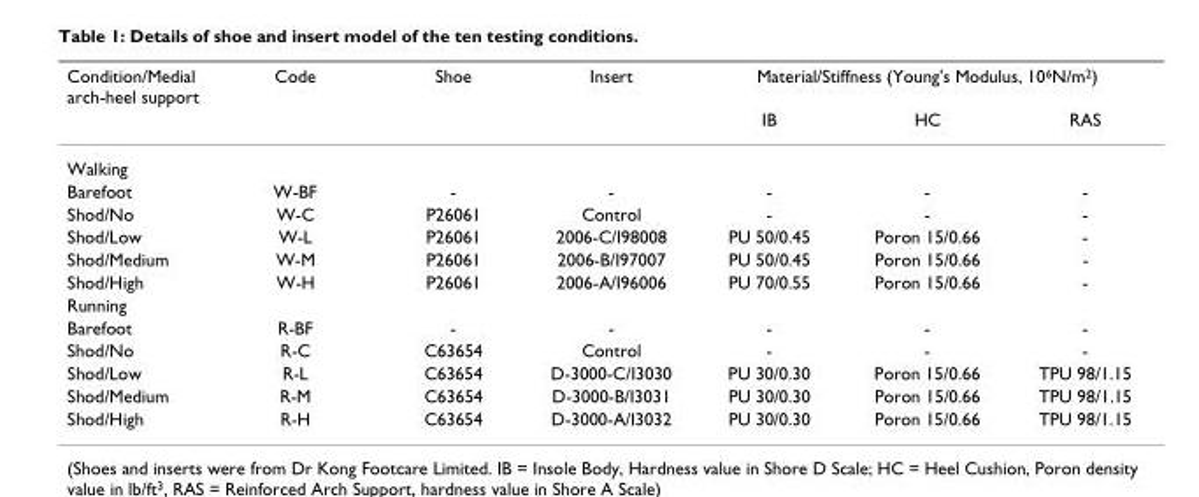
<table><thead><tr><td rowspan="2">Condition/Medial arch-heel support</td><td rowspan="2">Code</td><td rowspan="2">Shoe</td><td rowspan="2">Insert</td><td colspan="3">Material/Stiffness (Young&#x27;s Modulus, 10<sup>6</sup>N/m<sup>2</sup>)</td></tr><tr><td>IB</td><td>HC</td><td>RAS</td></tr></thead><tbody><tr><td colspan="7">Walking</td></tr><tr><td>Barefoot</td><td>W-BF</td><td>-</td><td>-</td><td>-</td><td>-</td><td>-</td></tr><tr><td>Shod/No</td><td>W-C</td><td>P26061</td><td>Control</td><td>-</td><td>-</td><td>-</td></tr><tr><td>Shod/Low</td><td>W-L</td><td>P26061</td><td>2006-C/I98008</td><td>PU 50/0.45</td><td>Poron 15/0.66</td><td>-</td></tr><tr><td>Shod/Medium</td><td>W-M</td><td>P26061</td><td>2006-B/I97007</td><td>PU 50/0.45</td><td>Poron 15/0.66</td><td>-</td></tr><tr><td>Shod/High</td><td>W-H</td><td>P26061</td><td>2006-A/I96006</td><td>PU 70/0.55</td><td>Poron 15/0.66</td><td>-</td></tr><tr><td colspan="7">Running</td></tr><tr><td>Barefoot</td><td>R-BF</td><td>-</td><td>-</td><td>-</td><td>-</td><td>-</td></tr><tr><td>Shod/No</td><td>R-C</td><td>C63654</td><td>Control</td><td>-</td><td>-</td><td>-</td></tr><tr><td>Shod/Low</td><td>R-L</td><td>C63654</td><td>D-3000-C/I3030</td><td>PU 30/0.30</td><td>Poron 15/0.66</td><td>TPU 98/1.15</td></tr><tr><td>Shod/Medium</td><td>R-M</td><td>C63654</td><td>D-3000-B/I3031</td><td>PU 30/0.30</td><td>Poron 15/0.66</td><td>TPU 98/1.15</td></tr><tr><td>Shod/High</td><td>R-H</td><td>C63654</td><td>D-3000-A/I3032</td><td>PU 30/0.30</td><td>Poron 15/0.66</td><td>TPU 98/1.15</td></tr></tbody></table>